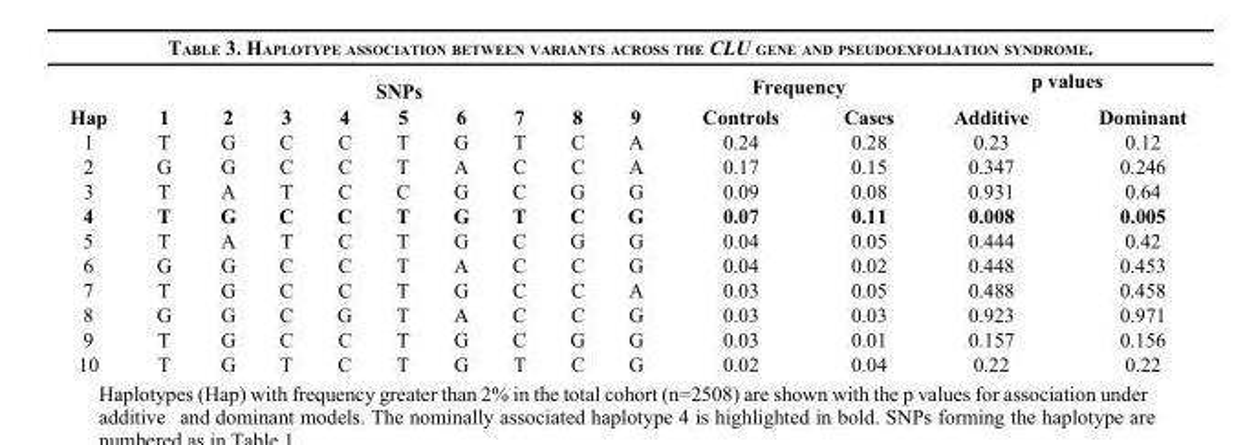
<table><thead><tr><td rowspan="2">Hap</td><td colspan="9">SNPs</td><td colspan="2">Frequency</td><td colspan="2">p values</td></tr><tr><td>1</td><td>2</td><td>3</td><td>4</td><td>5</td><td>6</td><td>7</td><td>8</td><td>9</td><td>Controls</td><td>Cases</td><td>Additive</td><td>Dominant</td></tr></thead><tbody><tr><td>1</td><td>T</td><td>G</td><td>C</td><td>C</td><td>T</td><td>G</td><td>T</td><td>C</td><td>A</td><td>0.24</td><td>0.28</td><td>0.23</td><td>0.12</td></tr><tr><td>2</td><td>G</td><td>G</td><td>C</td><td>C</td><td>T</td><td>A</td><td>C</td><td>C</td><td>A</td><td>0.17</td><td>0.15</td><td>0.347</td><td>0.246</td></tr><tr><td>3</td><td>T</td><td>A</td><td>T</td><td>C</td><td>C</td><td>G</td><td>C</td><td>G</td><td>G</td><td>0.09</td><td>0.08</td><td>0.931</td><td>0.64</td></tr><tr><td>4</td><td>T</td><td>G</td><td>C</td><td>C</td><td>T</td><td>G</td><td>T</td><td>C</td><td>G</td><td>0.07</td><td>0.11</td><td>0.008</td><td>0.005</td></tr><tr><td>5</td><td>T</td><td>A</td><td>T</td><td>C</td><td>T</td><td>G</td><td>C</td><td>G</td><td>G</td><td>0.04</td><td>0.05</td><td>0.444</td><td>0.42</td></tr><tr><td>6</td><td>G</td><td>G</td><td>C</td><td>C</td><td>T</td><td>A</td><td>C</td><td>C</td><td>G</td><td>0.04</td><td>0.02</td><td>0.448</td><td>0.453</td></tr><tr><td>7</td><td>T</td><td>G</td><td>C</td><td>C</td><td>T</td><td>G</td><td>C</td><td>C</td><td>A</td><td>0.03</td><td>0.05</td><td>0.488</td><td>0.458</td></tr><tr><td>8</td><td>G</td><td>G</td><td>C</td><td>G</td><td>T</td><td>A</td><td>C</td><td>C</td><td>G</td><td>0.03</td><td>0.03</td><td>0.923</td><td>0.971</td></tr><tr><td>9</td><td>T</td><td>G</td><td>C</td><td>C</td><td>T</td><td>G</td><td>C</td><td>G</td><td>G</td><td>0.03</td><td>0.01</td><td>0.157</td><td>0.156</td></tr><tr><td>10</td><td>T</td><td>G</td><td>T</td><td>C</td><td>T</td><td>G</td><td>T</td><td>C</td><td>G</td><td>0.02</td><td>0.04</td><td>0.22</td><td>0.22</td></tr></tbody></table>